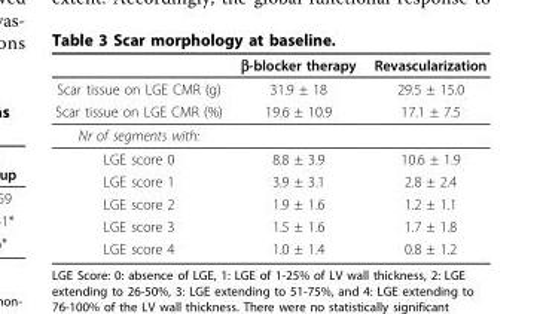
<table><thead><tr><td></td><td>β-blocker therapy</td><td>Revascularization</td></tr></thead><tbody><tr><td>Scar tissue on LGE CMR (g)</td><td>31.9 ± 18</td><td>29.5 ± 15.0</td></tr><tr><td>Scar tissue on LGE CMR (%)</td><td>19.6 ± 10.9</td><td>17.1 ± 7.5</td></tr><tr><td colspan="3">Nr of segments with:</td></tr><tr><td>LGE score 0</td><td>8.8 ± 3.9</td><td>10.6 ± 1.9</td></tr><tr><td>LGE score 1</td><td>3.9 ± 3.1</td><td>2.8 ± 2.4</td></tr><tr><td>LGE score 2</td><td>1.9 ± 1.6</td><td>1.2 ± 1.1</td></tr><tr><td>LGE score 3</td><td>1.5 ± 1.6</td><td>1.7 ± 1.8</td></tr><tr><td>LGE score 4</td><td>1.0 ± 1.4</td><td>0.8 ± 1.2</td></tr></tbody></table>